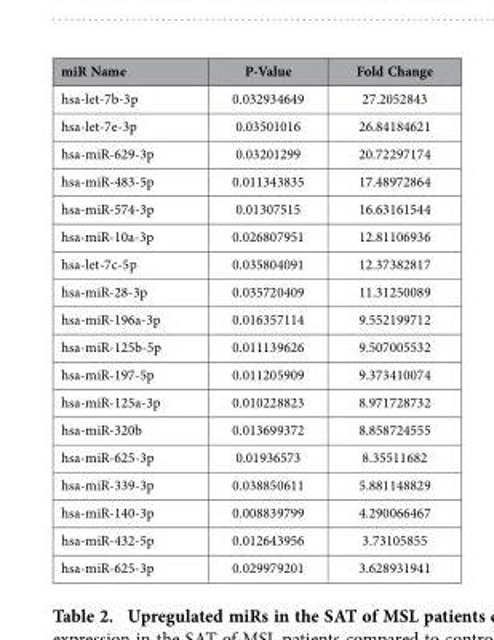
<table><thead><tr><td>miR Name</td><td>P-Value</td><td>Fold Change</td></tr></thead><tbody><tr><td>hsa-let-7b-3p</td><td>0.032934649</td><td>27.2052843</td></tr><tr><td>hsa-let-7e-3p</td><td>0.03501016</td><td>26.84184621</td></tr><tr><td>hsa-miR-629-3p</td><td>0.03201299</td><td>20.72297174</td></tr><tr><td>hsa-miR-483-5p</td><td>0.011343835</td><td>17.48972864</td></tr><tr><td>hsa-miR-574-3p</td><td>0.01307515</td><td>16.63161544</td></tr><tr><td>hsa-miR-10a-3p</td><td>0.026807951</td><td>12.81106936</td></tr><tr><td>hsa-let-7c-5p</td><td>0.035804091</td><td>12.37382817</td></tr><tr><td>hsa-miR-28-3p</td><td>0.035720409</td><td>11.31250089</td></tr><tr><td>hsa-miR-196a-3p</td><td>0.016357114</td><td>9.552199712</td></tr><tr><td>hsa-miR-125b-5p</td><td>0.011139626</td><td>9.507005532</td></tr><tr><td>hsa-miR-197-5p</td><td>0.011205909</td><td>9.373410074</td></tr><tr><td>hsa-miR-125a-3p</td><td>0.010228823</td><td>8.971728732</td></tr><tr><td>hsa-miR-320b</td><td>0.013699372</td><td>8.858724555</td></tr><tr><td>hsa-miR-625-3p</td><td>0.01936573</td><td>8.35511682</td></tr><tr><td>hsa-miR-339-3p</td><td>0.038850611</td><td>5.881148829</td></tr><tr><td>hsa-miR-140-3p</td><td>0.008839799</td><td>4.290066467</td></tr><tr><td>hsa-miR-432-5p</td><td>0.012643956</td><td>3.73105855</td></tr><tr><td>hsa-miR-625-3p</td><td>0.029979201</td><td>3.628931941</td></tr></tbody></table>